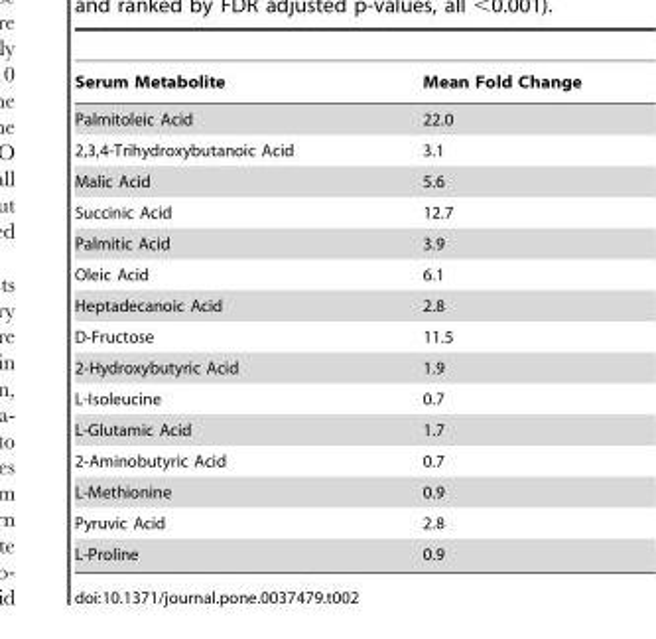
<table><thead><tr><td>Serum Metabolite</td><td>Mean Fold Change</td></tr></thead><tbody><tr><td>Palmitoleic Acid</td><td>22.0</td></tr><tr><td>2,3,4-Trihydroxybutanoic Acid</td><td>3.1</td></tr><tr><td>Malic Acid</td><td>5.6</td></tr><tr><td>Succinic Acid</td><td>12.7</td></tr><tr><td>Palmitic Acid</td><td>3.9</td></tr><tr><td>Oleic Acid</td><td>6.1</td></tr><tr><td>Heptadecanoic Acid</td><td>2.8</td></tr><tr><td>D-Fructose</td><td>11.5</td></tr><tr><td>2-Hydroxybutyric Acid</td><td>1.9</td></tr><tr><td>L-Isoleucine</td><td>0.7</td></tr><tr><td>L-Glutamic Acid</td><td>1.7</td></tr><tr><td>2-Aminobutyric Acid</td><td>0.7</td></tr><tr><td>L-Methionine</td><td>0.9</td></tr><tr><td>Pyruvic Acid</td><td>2.8</td></tr><tr><td>L-Proline</td><td>0.9</td></tr></tbody></table>